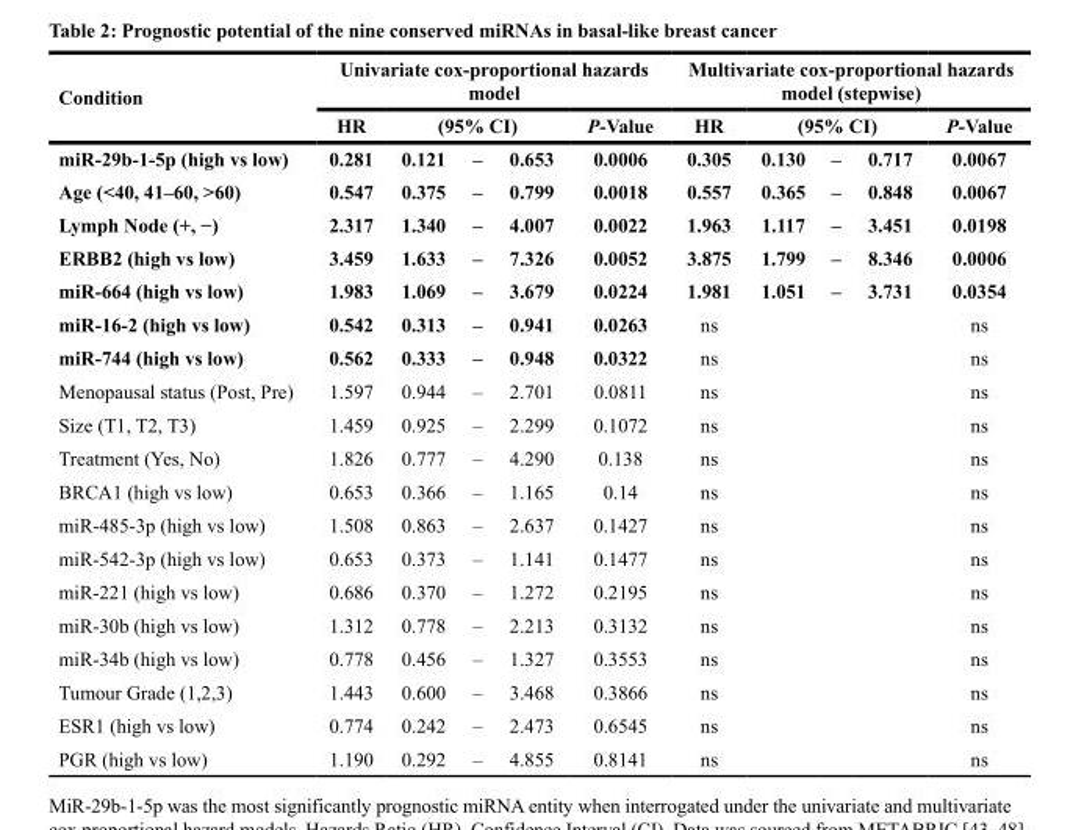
<table><thead><tr><td rowspan="3">Condition miR-29b-1-5p (high vs low)</td><td colspan="5">Univariate cox-proportional hazards model</td><td colspan="5">Multivariate cox-proportional hazards model (stepwise)</td></tr><tr><td rowspan="2">HR 0.281</td><td colspan="3">(95% CI)</td><td rowspan="2">P-Value 0.0006</td><td rowspan="2">HR 0.305</td><td colspan="3">(95% CI)</td><td rowspan="2">P-Value 0.0067</td></tr><tr><td>0.121</td><td>–</td><td>0.653</td><td>0.130</td><td>–</td><td>0.717</td></tr></thead><tbody><tr><td>Age (&lt;40, 41–60, &gt;60)</td><td>0.547</td><td>0.375</td><td>–</td><td>0.799</td><td>0.0018</td><td>0.557</td><td>0.365</td><td>–</td><td>0.848</td><td>0.0067</td></tr><tr><td>Lymph Node (+, −)</td><td>2.317</td><td>1.340</td><td>–</td><td>4.007</td><td>0.0022</td><td>1.963</td><td>1.117</td><td>–</td><td>3.451</td><td>0.0198</td></tr><tr><td>ERBB2 (high vs low)</td><td>3.459</td><td>1.633</td><td>–</td><td>7.326</td><td>0.0052</td><td>3.875</td><td>1.799</td><td>–</td><td>8.346</td><td>0.0006</td></tr><tr><td>miR-664 (high vs low)</td><td>1.983</td><td>1.069</td><td>–</td><td>3.679</td><td>0.0224</td><td>1.981</td><td>1.051</td><td>–</td><td>3.731</td><td>0.0354</td></tr><tr><td>miR-16-2 (high vs low)</td><td>0.542</td><td>0.313</td><td>–</td><td>0.941</td><td>0.0263</td><td>ns</td><td></td><td></td><td></td><td>ns</td></tr><tr><td>miR-744 (high vs low)</td><td>0.562</td><td>0.333</td><td>–</td><td>0.948</td><td>0.0322</td><td>ns</td><td></td><td></td><td></td><td>ns</td></tr><tr><td>Menopausal status (Post, Pre)</td><td>1.597</td><td>0.944</td><td>–</td><td>2.701</td><td>0.0811</td><td>ns</td><td></td><td></td><td></td><td>ns</td></tr><tr><td>Size (T1, T2, T3)</td><td>1.459</td><td>0.925</td><td>–</td><td>2.299</td><td>0.1072</td><td>ns</td><td></td><td></td><td></td><td>ns</td></tr><tr><td>Treatment (Yes, No)</td><td>1.826</td><td>0.777</td><td>–</td><td>4.290</td><td>0.138</td><td>ns</td><td></td><td></td><td></td><td>ns</td></tr><tr><td>BRCA1 (high vs low)</td><td>0.653</td><td>0.366</td><td>–</td><td>1.165</td><td>0.14</td><td>ns</td><td></td><td></td><td></td><td>ns</td></tr><tr><td>miR-485-3p (high vs low)</td><td>1.508</td><td>0.863</td><td>–</td><td>2.637</td><td>0.1427</td><td>ns</td><td></td><td></td><td></td><td>ns</td></tr><tr><td>miR-542-3p (high vs low)</td><td>0.653</td><td>0.373</td><td>–</td><td>1.141</td><td>0.1477</td><td>ns</td><td></td><td></td><td></td><td>ns</td></tr><tr><td>miR-221 (high vs low)</td><td>0.686</td><td>0.370</td><td>–</td><td>1.272</td><td>0.2195</td><td>ns</td><td></td><td></td><td></td><td>ns</td></tr><tr><td>miR-30b (high vs low)</td><td>1.312</td><td>0.778</td><td>–</td><td>2.213</td><td>0.3132</td><td>ns</td><td></td><td></td><td></td><td>ns</td></tr><tr><td>miR-34b (high vs low)</td><td>0.778</td><td>0.456</td><td>–</td><td>1.327</td><td>0.3553</td><td>ns</td><td></td><td></td><td></td><td>ns</td></tr><tr><td>Tumour Grade (1,2,3)</td><td>1.443</td><td>0.600</td><td>–</td><td>3.468</td><td>0.3866</td><td>ns</td><td></td><td></td><td></td><td>ns</td></tr><tr><td>ESR1 (high vs low)</td><td>0.774</td><td>0.242</td><td>–</td><td>2.473</td><td>0.6545</td><td>ns</td><td></td><td></td><td></td><td>ns</td></tr><tr><td>PGR (high vs low)</td><td>1.190</td><td>0.292</td><td>–</td><td>4.855</td><td>0.8141</td><td>ns</td><td></td><td></td><td></td><td>ns</td></tr></tbody></table>